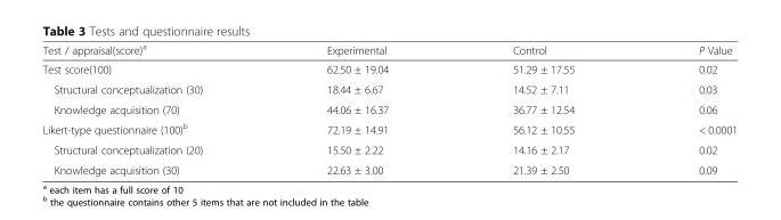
<table><thead><tr><td>Test / appraisal(score)<sup>a</sup></td><td>Experimental</td><td>Control</td><td>P Value</td></tr></thead><tbody><tr><td>Test score(100)</td><td>62.50 ± 19.04</td><td>51.29 ± 17.55</td><td>0.02</td></tr><tr><td>Structural conceptualization (30)</td><td>18.44 ± 6.67</td><td>14.52 ± 7.11</td><td>0.03</td></tr><tr><td>Knowledge acquisition (70)</td><td>44.06 ± 16.37</td><td>36.77 ± 12.54</td><td>0.06</td></tr><tr><td>Likert-type questionnaire (100)<sup>b</sup></td><td>72.19 ± 14.91</td><td>56.12 ± 10.55</td><td>&lt; 0.0001</td></tr><tr><td>Structural conceptualization (20)</td><td>15.50 ± 2.22</td><td>14.16 ± 2.17</td><td>0.02</td></tr><tr><td>Knowledge acquisition (30)</td><td>22.63 ± 3.00</td><td>21.39 ± 2.50</td><td>0.09</td></tr></tbody></table>